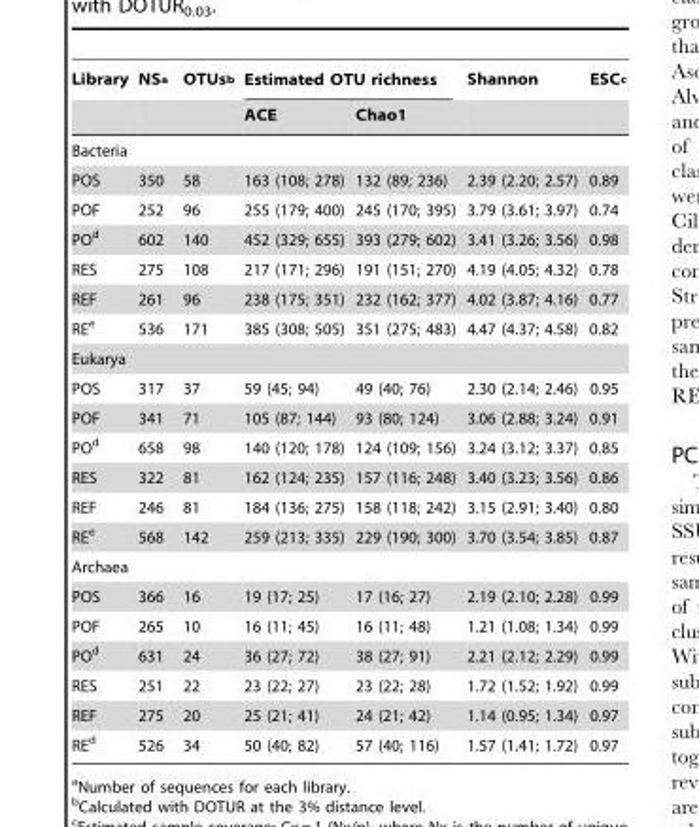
<table><thead><tr><td rowspan="2">Library</td><td rowspan="2">NS<sup>a</sup></td><td rowspan="2">OTUs<sup>b</sup></td><td colspan="2">Estimated OTU richness</td><td rowspan="2">Shannon</td><td rowspan="2">ESC<sup>c</sup></td></tr><tr><td>ACE</td><td>Chao1</td></tr></thead><tbody><tr><td colspan="7">Bacteria</td></tr><tr><td>POS</td><td>350</td><td>58</td><td>163 (108; 278)</td><td>132 (89; 236)</td><td>2.39 (2.20; 2.57)</td><td>0.89</td></tr><tr><td>POF</td><td>252</td><td>96</td><td>255 (179; 400)</td><td>245 (170; 395)</td><td>3.79 (3.61; 3.97)</td><td>0.74</td></tr><tr><td>PO<sup>d</sup></td><td>602</td><td>140</td><td>452 (329; 655)</td><td>393 (279; 602)</td><td>3.41 (3.26; 3.56)</td><td>0.98</td></tr><tr><td>RES</td><td>275</td><td>108</td><td>217 (171; 296)</td><td>191 (151; 270)</td><td>4.19 (4.05; 4.32)</td><td>0.78</td></tr><tr><td>REF</td><td>261</td><td>96</td><td>238 (175; 351)</td><td>232 (162; 377)</td><td>4.02 (3.87; 4.16)</td><td>0.77</td></tr><tr><td>RE<sup>e</sup></td><td>536</td><td>171</td><td>385 (308; 505)</td><td>351 (275; 483)</td><td>4.47 (4.37; 4.58)</td><td>0.82</td></tr><tr><td colspan="7">Eukarya</td></tr><tr><td>POS</td><td>317</td><td>37</td><td>59 (45; 94)</td><td>49 (40; 76)</td><td>2.30 (2.14; 2.46)</td><td>0.95</td></tr><tr><td>POF</td><td>341</td><td>71</td><td>105 (87; 144)</td><td>93 (80; 124)</td><td>3.06 (2.88; 3.24)</td><td>0.91</td></tr><tr><td>PO<sup>d</sup></td><td>658</td><td>98</td><td>140 (120; 178)</td><td>124 (109; 156)</td><td>3.24 (3.12; 3.37)</td><td>0.85</td></tr><tr><td>RES</td><td>322</td><td>81</td><td>162 (124; 235)</td><td>157 (116; 248)</td><td>3.40 (3.23; 3.56)</td><td>0.86</td></tr><tr><td>REF</td><td>246</td><td>81</td><td>184 (136; 275)</td><td>158 (118; 242)</td><td>3.15 (2.91; 3.40)</td><td>0.80</td></tr><tr><td>RE<sup>e</sup></td><td>568</td><td>142</td><td>259 (213; 335)</td><td>229 (190; 300)</td><td>3.70 (3.54; 3.85)</td><td>0.87</td></tr><tr><td colspan="7">Archaea</td></tr><tr><td>POS</td><td>366</td><td>16</td><td>19 (17; 25)</td><td>17 (16; 27)</td><td>2.19 (2.10; 2.28)</td><td>0.99</td></tr><tr><td>POF</td><td>265</td><td>10</td><td>16 (11; 45)</td><td>16 (11; 48)</td><td>1.21 (1.08; 1.34)</td><td>0.99</td></tr><tr><td>PO<sup>d</sup></td><td>631</td><td>24</td><td>36 (27; 72)</td><td>38 (27; 91)</td><td>2.21 (2.12; 2.29)</td><td>0.99</td></tr><tr><td>RES</td><td>251</td><td>22</td><td>23 (22; 27)</td><td>23 (22; 28)</td><td>1.72 (1.52; 1.92)</td><td>0.99</td></tr><tr><td>REF</td><td>275</td><td>20</td><td>25 (21; 41)</td><td>24 (21; 42)</td><td>1.14 (0.95; 1.34)</td><td>0.97</td></tr><tr><td>RE<sup>d</sup></td><td>526</td><td>34</td><td>50 (40; 82)</td><td>57 (40; 116)</td><td>1.57 (1.41; 1.72)</td><td>0.97</td></tr></tbody></table>